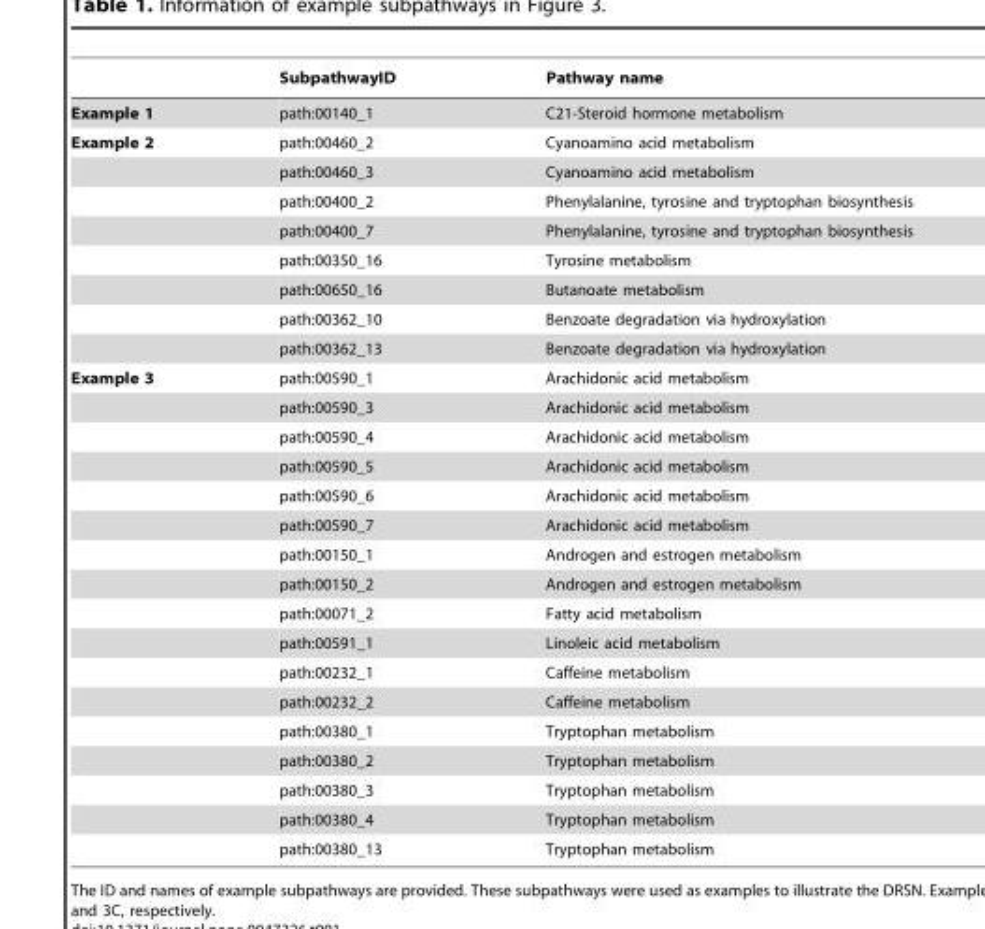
<table><thead><tr><td></td><td>SubpathwayID</td><td>Pathway name</td></tr></thead><tbody><tr><td>Example 1</td><td>path:00140_1</td><td>C21-Steroid hormone metabolism</td></tr><tr><td rowspan="8">Example 2</td><td>path:00460_2</td><td>Cyanoamino acid metabolism</td></tr><tr><td>path:00460_3</td><td>Cyanoamino acid metabolism</td></tr><tr><td>path:00400_2</td><td>Phenylalanine, tyrosine and tryptophan biosynthesis</td></tr><tr><td>path:00400_7</td><td>Phenylalanine, tyrosine and tryptophan biosynthesis</td></tr><tr><td>path:00350_16</td><td>Tyrosine metabolism</td></tr><tr><td>path:00650_16</td><td>Butanoate metabolism</td></tr><tr><td>path:00362_10</td><td>Benzoate degradation via hydroxylation</td></tr><tr><td>path:00362_13</td><td>Benzoate degradation via hydroxylation</td></tr><tr><td rowspan="17">Example 3</td><td>path:00590_1</td><td>Arachidonic acid metabolism</td></tr><tr><td>path:00590_3</td><td>Arachidonic acid metabolism</td></tr><tr><td>path:00590_4</td><td>Arachidonic acid metabolism</td></tr><tr><td>path:00590_5</td><td>Arachidonic acid metabolism</td></tr><tr><td>path:00590_6</td><td>Arachidonic acid metabolism</td></tr><tr><td>path:00590_7</td><td>Arachidonic acid metabolism</td></tr><tr><td>path:00150_1</td><td>Androgen and estrogen metabolism</td></tr><tr><td>path:00150_2</td><td>Androgen and estrogen metabolism</td></tr><tr><td>path:00071_2</td><td>Fatty acid metabolism</td></tr><tr><td>path:00591_1</td><td>Linoleic acid metabolism</td></tr><tr><td>path:00232_1</td><td>Caffeine metabolism</td></tr><tr><td>path:00232_2</td><td>Caffeine metabolism</td></tr><tr><td>path:00380_1</td><td>Tryptophan metabolism</td></tr><tr><td>path:00380_2</td><td>Tryptophan metabolism</td></tr><tr><td>path:00380_3</td><td>Tryptophan metabolism</td></tr><tr><td>path:00380_4</td><td>Tryptophan metabolism</td></tr><tr><td>path:00380_13</td><td>Tryptophan metabolism</td></tr></tbody></table>